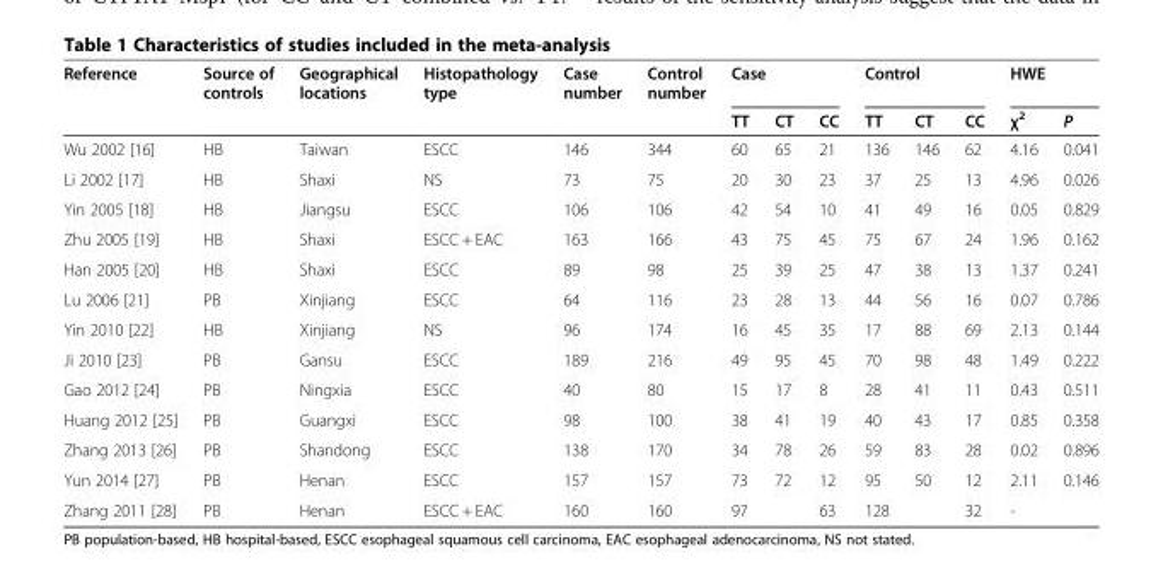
<table><thead><tr><td rowspan="2">Reference</td><td rowspan="2">Source of controls</td><td rowspan="2">Geographical locations</td><td rowspan="2">Histopathology type</td><td rowspan="2">Case number</td><td rowspan="2">Control number</td><td colspan="3">Case</td><td colspan="3">Control</td><td colspan="2">HWE</td></tr><tr><td>TT</td><td>CT</td><td>CC</td><td>TT</td><td>CT</td><td>CC</td><td>χ<sup>2</sup></td><td>P</td></tr></thead><tbody><tr><td>Wu 2002 [16]</td><td>HB</td><td>Taiwan</td><td>ESCC</td><td>146</td><td>344</td><td>60</td><td>65</td><td>21</td><td>136</td><td>146</td><td>62</td><td>4.16</td><td>0.041</td></tr><tr><td>Li 2002 [17]</td><td>HB</td><td>Shaxi</td><td>NS</td><td>73</td><td>75</td><td>20</td><td>30</td><td>23</td><td>37</td><td>25</td><td>13</td><td>4.96</td><td>0.026</td></tr><tr><td>Yin 2005 [18]</td><td>HB</td><td>Jiangsu</td><td>ESCC</td><td>106</td><td>106</td><td>42</td><td>54</td><td>10</td><td>41</td><td>49</td><td>16</td><td>0.05</td><td>0.829</td></tr><tr><td>Zhu 2005 [19]</td><td>HB</td><td>Shaxi</td><td>ESCC + EAC</td><td>163</td><td>166</td><td>43</td><td>75</td><td>45</td><td>75</td><td>67</td><td>24</td><td>1.96</td><td>0.162</td></tr><tr><td>Han 2005 [20]</td><td>HB</td><td>Shaxi</td><td>ESCC</td><td>89</td><td>98</td><td>25</td><td>39</td><td>25</td><td>47</td><td>38</td><td>13</td><td>1.37</td><td>0.241</td></tr><tr><td>Lu 2006 [21]</td><td>PB</td><td>Xinjiang</td><td>ESCC</td><td>64</td><td>116</td><td>23</td><td>28</td><td>13</td><td>44</td><td>56</td><td>16</td><td>0.07</td><td>0.786</td></tr><tr><td>Yin 2010 [22]</td><td>HB</td><td>Xinjiang</td><td>NS</td><td>96</td><td>174</td><td>16</td><td>45</td><td>35</td><td>17</td><td>88</td><td>69</td><td>2.13</td><td>0.144</td></tr><tr><td>Ji 2010 [23]</td><td>PB</td><td>Gansu</td><td>ESCC</td><td>189</td><td>216</td><td>49</td><td>95</td><td>45</td><td>70</td><td>98</td><td>48</td><td>1.49</td><td>0.222</td></tr><tr><td>Gao 2012 [24]</td><td>PB</td><td>Ningxia</td><td>ESCC</td><td>40</td><td>80</td><td>15</td><td>17</td><td>8</td><td>28</td><td>41</td><td>11</td><td>0.43</td><td>0.511</td></tr><tr><td>Huang 2012 [25]</td><td>PB</td><td>Guangxi</td><td>ESCC</td><td>98</td><td>100</td><td>38</td><td>41</td><td>19</td><td>40</td><td>43</td><td>17</td><td>0.85</td><td>0.358</td></tr><tr><td>Zhang 2013 [26]</td><td>PB</td><td>Shandong</td><td>ESCC</td><td>138</td><td>170</td><td>34</td><td>78</td><td>26</td><td>59</td><td>83</td><td>28</td><td>0.02</td><td>0.896</td></tr><tr><td>Yun 2014 [27]</td><td>PB</td><td>Henan</td><td>ESCC</td><td>157</td><td>157</td><td>73</td><td>72</td><td>12</td><td>95</td><td>50</td><td>12</td><td>2.11</td><td>0.146</td></tr><tr><td>Zhang 2011 [28]</td><td>PB</td><td>Henan</td><td>ESCC + EAC</td><td>160</td><td>160</td><td colspan="2">97</td><td>63</td><td colspan="2">128</td><td>32</td><td colspan="2">-</td></tr></tbody></table>